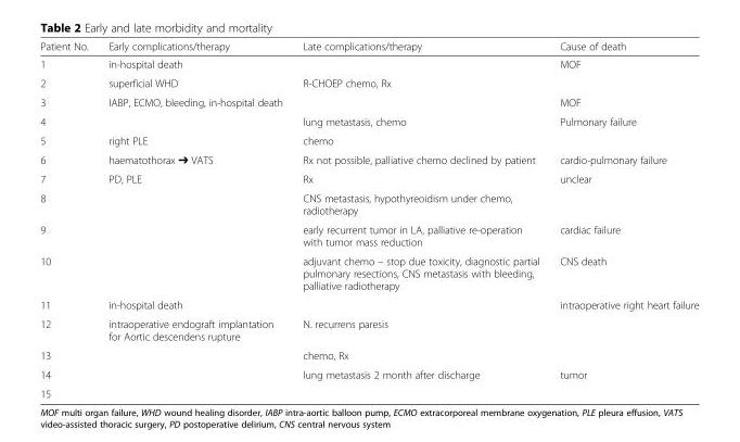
<table><thead><tr><td>Patient No.</td><td>Early complications/therapy</td><td>Late complications/therapy</td><td>Cause of death</td></tr></thead><tbody><tr><td>1</td><td>in-hospital death</td><td></td><td>MOF</td></tr><tr><td>2</td><td>superficial WHD</td><td>R-CHOEP chemo, Rx</td><td></td></tr><tr><td>3</td><td>IABP, ECMO, bleeding, in-hospital death</td><td></td><td>MOF</td></tr><tr><td>4</td><td></td><td>lung metastasis, chemo</td><td>Pulmonary failure</td></tr><tr><td>5</td><td>right PLE</td><td>chemo</td><td></td></tr><tr><td>6</td><td>haematothorax ➔ VATS</td><td>Rx not possible, palliative chemo declined by patient</td><td>cardio-pulmonary failure</td></tr><tr><td>7</td><td>PD, PLE</td><td>Rx</td><td>unclear</td></tr><tr><td>8</td><td></td><td>CNS metastasis, hypothyreoidism under chemo, radiotherapy</td><td></td></tr><tr><td>9</td><td></td><td>early recurrent tumor in LA, palliative re-operation with tumor mass reduction</td><td>cardiac failure</td></tr><tr><td>10</td><td></td><td>adjuvant chemo – stop due toxicity, diagnostic partial pulmonary resections, CNS metastasis with bleeding, palliative radiotherapy</td><td>CNS death</td></tr><tr><td>11</td><td>in-hospital death</td><td></td><td>intraoperative right heart failure</td></tr><tr><td>12</td><td>intraoperative endograft implantation for Aortic descendens rupture</td><td>N. recurrens paresis</td><td></td></tr><tr><td>13</td><td></td><td>chemo, Rx</td><td></td></tr><tr><td>14</td><td></td><td>lung metastasis 2 month after discharge</td><td>tumor</td></tr><tr><td>15</td><td></td><td></td><td></td></tr></tbody></table>